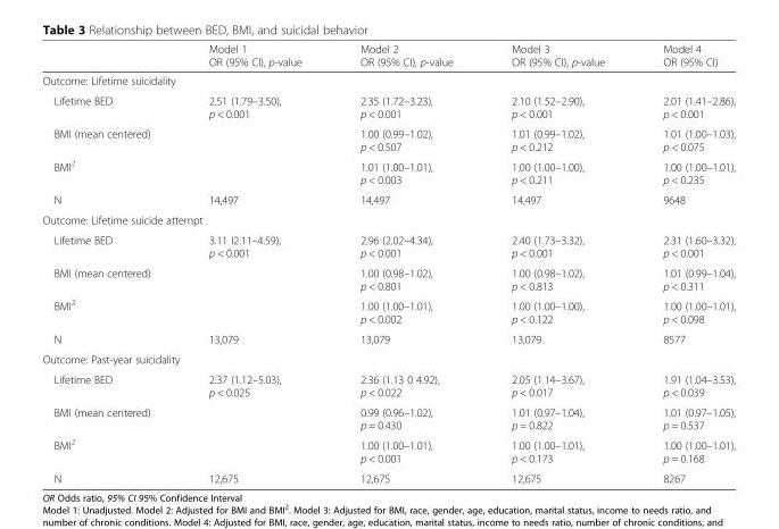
<table><thead><tr><td></td><td>Model 1 OR (95% CI), p-value</td><td>Model 2 OR (95% CI), p-value</td><td>Model 3 OR (95% CI), p-value</td><td>Model 4 OR (95% CI)</td></tr></thead><tbody><tr><td colspan="5">Outcome: Lifetime suicidality</td></tr><tr><td>Lifetime BED</td><td>2.51 (1.79–3.50), p &lt; 0.001</td><td>2.35 (1.72–3.23), p &lt; 0.001</td><td>2.10 (1.52–2.90), p &lt; 0.001</td><td>2.01 (1.41–2.86), p &lt; 0.001</td></tr><tr><td>BMI (mean centered)</td><td></td><td>1.00 (0.99–1.02), p &lt; 0.507</td><td>1.01 (0.99–1.02), p &lt; 0.212</td><td>1.01 (1.00–1.03), p &lt; 0.075</td></tr><tr><td>BMI<sup>2</sup></td><td></td><td>1.01 (1.00–1.01), p &lt; 0.003</td><td>1.00 (1.00–1.00), p &lt; 0.211</td><td>1.00 (1.00–1.01), p &lt; 0.235</td></tr><tr><td>N</td><td>14,497</td><td>14,497</td><td>14,497</td><td>9648</td></tr><tr><td colspan="5">Outcome: Lifetime suicide attempt</td></tr><tr><td>Lifetime BED</td><td>3.11 I2.11–4.59), p &lt; 0.001</td><td>2.96 (2.02–4.34), p &lt; 0.001</td><td>2.40 (1.73–3.32), p &lt; 0.001</td><td>2.31 (1.60–3.32), p &lt; 0.001</td></tr><tr><td>BMI (mean centered)</td><td></td><td>1.00 (0.98–1.02), p &lt; 0.801</td><td>1.00 (0.98–1.02), p &lt; 0.813</td><td>1.01 (0.99–1.04), p &lt; 0.311</td></tr><tr><td>BMI<sup>2</sup></td><td></td><td>1.00 (1.00–1.01), p &lt; 0.002</td><td>1.00 (1.00–1.00), p &lt; 0.122</td><td>1.00 (1.00–1.01), p &lt; 0.098</td></tr><tr><td>N</td><td>13,079</td><td>13,079</td><td>13,079</td><td>8577</td></tr><tr><td colspan="5">Outcome: Past-year suicidality</td></tr><tr><td>Lifetime BED</td><td>2.37 (1.12–5.03), p &lt; 0.025</td><td>2.36 (1.13 0 4.92), p &lt; 0.022</td><td>2.05 (1.14–3.67), p &lt; 0.017</td><td>1.91 (1.04–3.53), p &lt; 0.039</td></tr><tr><td>BMI (mean centered)</td><td></td><td>0.99 (0.96–1.02), p = 0.430</td><td>1.01 (0.97–1.04), p = 0.822</td><td>1.01 (0.97–1.05), p = 0.537</td></tr><tr><td>BMI<sup>2</sup></td><td></td><td>1.00 (1.00–1.01), p &lt; 0.001</td><td>1.00 (1.00–1.01), p &lt; 0.173</td><td>1.00 (1.00–1.01), p = 0.168</td></tr><tr><td>N</td><td>12,675</td><td>12,675</td><td>12,675</td><td>8267</td></tr></tbody></table>